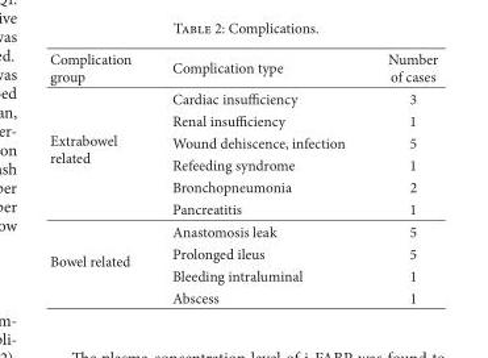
<table><thead><tr><td>Complication group</td><td>Complication type</td><td>Number of cases</td></tr></thead><tbody><tr><td rowspan="6">Extrabowel related</td><td>Cardiac insufficiency</td><td>3</td></tr><tr><td>Renal insufficiency</td><td>1</td></tr><tr><td>Wound dehiscence, infection</td><td>5</td></tr><tr><td>Refeeding syndrome</td><td>1</td></tr><tr><td>Bronchopneumonia</td><td>2</td></tr><tr><td>Pancreatitis</td><td>1</td></tr><tr><td rowspan="4">Bowel related</td><td>Anastomosis leak</td><td>5</td></tr><tr><td>Prolonged ileus</td><td>5</td></tr><tr><td>Bleeding intraluminal</td><td>1</td></tr><tr><td>Abscess</td><td>1</td></tr></tbody></table>